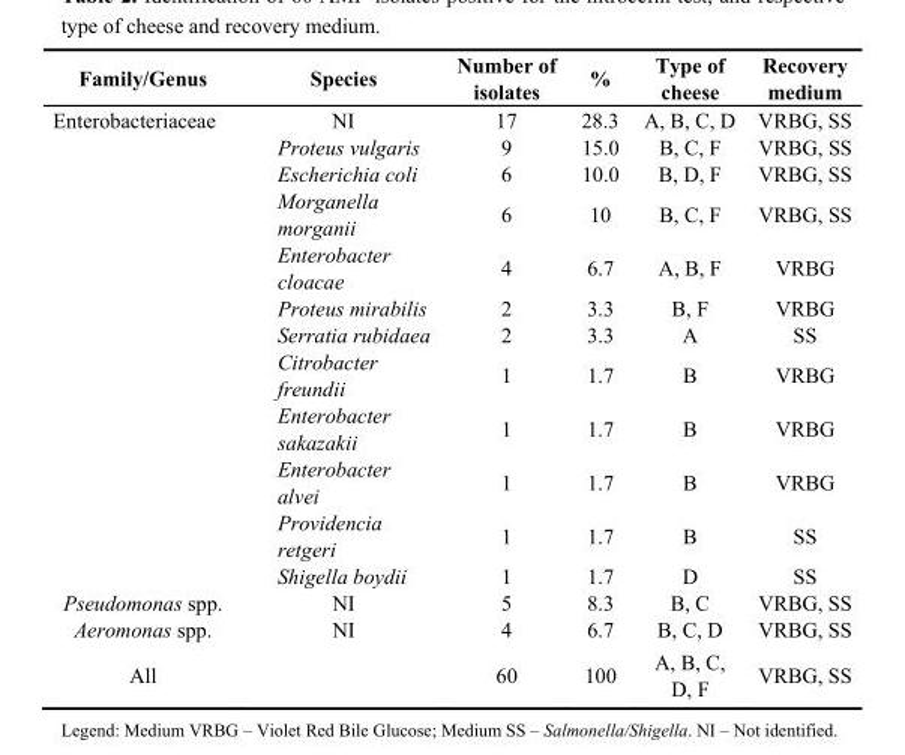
<table><thead><tr><td>Family/Genus</td><td>Species</td><td>Number of isolates</td><td>%</td><td>Type of cheese</td><td>Recovery medium</td></tr></thead><tbody><tr><td rowspan="12">Enterobacteriaceae</td><td>NI</td><td>17</td><td>28.3</td><td>A, B, C, D</td><td>VRBG, SS</td></tr><tr><td>Proteus vulgaris</td><td>9</td><td>15.0</td><td>B, C, F</td><td>VRBG, SS</td></tr><tr><td>Escherichia coli</td><td>6</td><td>10.0</td><td>B, D, F</td><td>VRBG, SS</td></tr><tr><td>Morganella morganii</td><td>6</td><td>10</td><td>B, C, F</td><td>VRBG, SS</td></tr><tr><td>Enterobacter cloacae</td><td>4</td><td>6.7</td><td>A, B, F</td><td>VRBG</td></tr><tr><td>Proteus mirabilis</td><td>2</td><td>3.3</td><td>B, F</td><td>VRBG</td></tr><tr><td>Serratia rubidaea</td><td>2</td><td>3.3</td><td>A</td><td>SS</td></tr><tr><td>Citrobacter freundii</td><td>1</td><td>1.7</td><td>B</td><td>VRBG</td></tr><tr><td>Enterobacter sakazakii</td><td>1</td><td>1.7</td><td>B</td><td>VRBG</td></tr><tr><td>Enterobacter alvei</td><td>1</td><td>1.7</td><td>B</td><td>VRBG</td></tr><tr><td>Providencia retgeri</td><td>1</td><td>1.7</td><td>B</td><td>SS</td></tr><tr><td>Shigella boydii</td><td>1</td><td>1.7</td><td>D</td><td>SS</td></tr><tr><td>Pseudomonas spp.</td><td>NI</td><td>5</td><td>8.3</td><td>B, C</td><td>VRBG, SS</td></tr><tr><td>Aeromonas spp.</td><td>NI</td><td>4</td><td>6.7</td><td>B, C, D</td><td>VRBG, SS</td></tr><tr><td>All</td><td></td><td>60</td><td>100</td><td>A, B, C, D, F</td><td>VRBG, SS</td></tr></tbody></table>